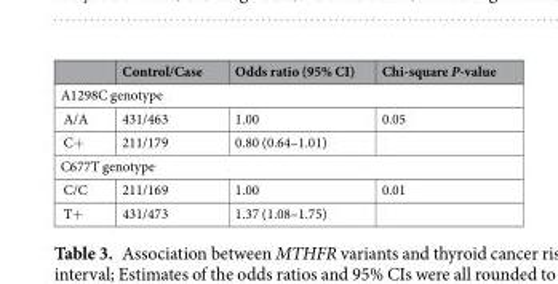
<table><thead><tr><td></td><td>Control/Case</td><td>Odds ratio (95% CI)</td><td>Chi-square P-value</td></tr></thead><tbody><tr><td colspan="4">A1298C genotype</td></tr><tr><td>A/A</td><td>431/463</td><td>1.00</td><td>0.05</td></tr><tr><td>C+</td><td>211/179</td><td>0.80 (0.64–1.01)</td><td></td></tr><tr><td colspan="4">C677T genotype</td></tr><tr><td>C/C</td><td>211/169</td><td>1.00</td><td>0.01</td></tr><tr><td>T+</td><td>431/473</td><td>1.37 (1.08–1.75)</td><td></td></tr></tbody></table>